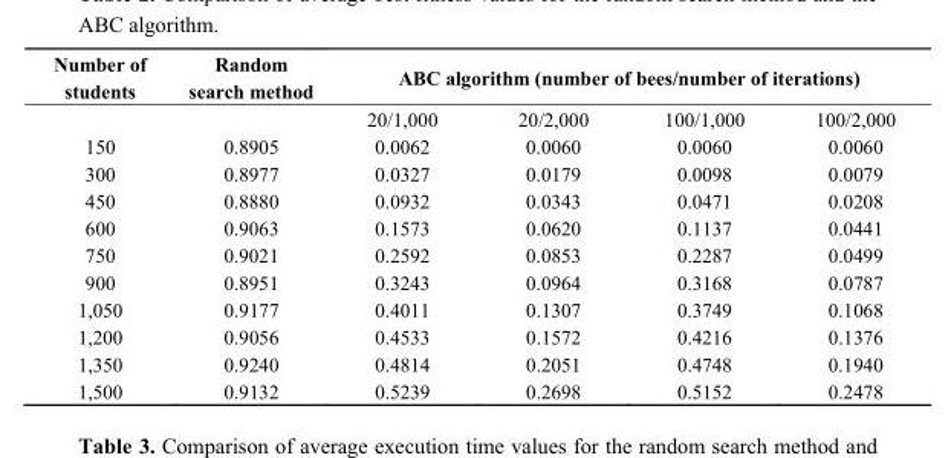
<table><thead><tr><td rowspan="2">Number of students</td><td rowspan="2">Random search method</td><td colspan="4">ABC algorithm (number of bees/number of iterations)</td></tr><tr><td>20/1,000</td><td>20/2,000</td><td>100/1,000</td><td>100/2,000</td></tr></thead><tbody><tr><td>150</td><td>0.8905</td><td>0.0062</td><td>0.0060</td><td>0.0060</td><td>0.0060</td></tr><tr><td>300</td><td>0.8977</td><td>0.0327</td><td>0.0179</td><td>0.0098</td><td>0.0079</td></tr><tr><td>450</td><td>0.8880</td><td>0.0932</td><td>0.0343</td><td>0.0471</td><td>0.0208</td></tr><tr><td>600</td><td>0.9063</td><td>0.1573</td><td>0.0620</td><td>0.1137</td><td>0.0441</td></tr><tr><td>750</td><td>0.9021</td><td>0.2592</td><td>0.0853</td><td>0.2287</td><td>0.0499</td></tr><tr><td>900</td><td>0.8951</td><td>0.3243</td><td>0.0964</td><td>0.3168</td><td>0.0787</td></tr><tr><td>1,050</td><td>0.9177</td><td>0.4011</td><td>0.1307</td><td>0.3749</td><td>0.1068</td></tr><tr><td>1,200</td><td>0.9056</td><td>0.4533</td><td>0.1572</td><td>0.4216</td><td>0.1376</td></tr><tr><td>1,350</td><td>0.9240</td><td>0.4814</td><td>0.2051</td><td>0.4748</td><td>0.1940</td></tr><tr><td>1,500</td><td>0.9132</td><td>0.5239</td><td>0.2698</td><td>0.5152</td><td>0.2478</td></tr></tbody></table>